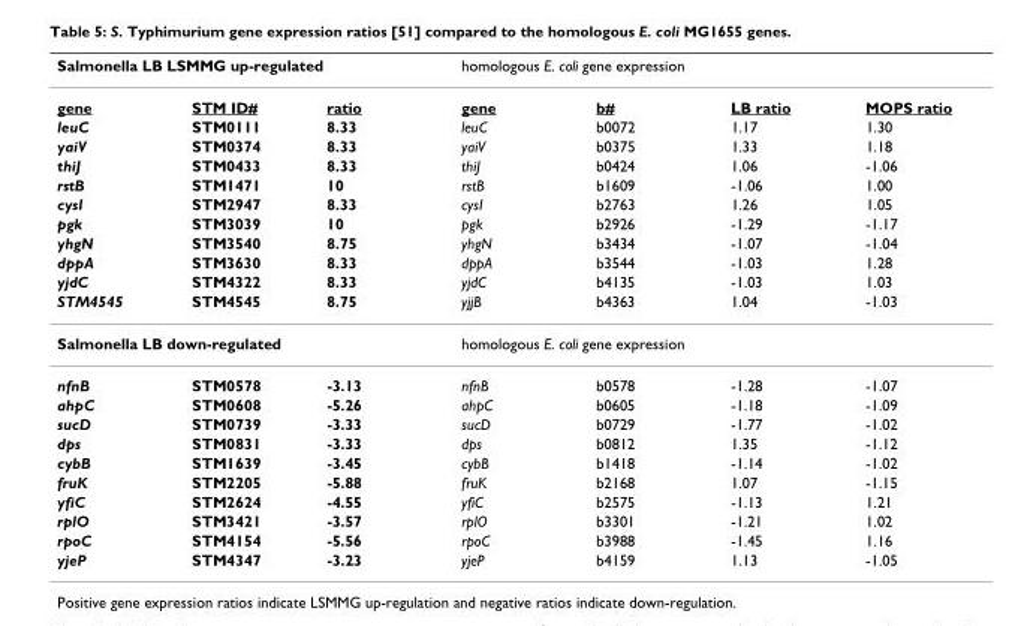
<table><thead><tr><td colspan="3">Salmonella LB LSMMG up-regulated</td><td colspan="4">homologous E. coli gene expression</td></tr><tr><td>gene</td><td>STM ID#</td><td>ratio</td><td>gene</td><td>b#</td><td>LB ratio</td><td>MOPS ratio</td></tr></thead><tbody><tr><td>leuC</td><td>STM0111</td><td>8.33</td><td>leuC</td><td>b0072</td><td>1.17</td><td>1.30</td></tr><tr><td>yaiV</td><td>STM0374</td><td>8.33</td><td>yaiV</td><td>b0375</td><td>1.33</td><td>1.18</td></tr><tr><td>thiJ</td><td>STM0433</td><td>8.33</td><td>thiJ</td><td>b0424</td><td>1.06</td><td>-1.06</td></tr><tr><td>rstB</td><td>STM1471</td><td>10</td><td>rstB</td><td>b1609</td><td>-1.06</td><td>1.00</td></tr><tr><td>cysI</td><td>STM2947</td><td>8.33</td><td>cysI</td><td>b2763</td><td>1.26</td><td>1.05</td></tr><tr><td>pgk</td><td>STM3039</td><td>10</td><td>pgk</td><td>b2926</td><td>-1.29</td><td>-1.17</td></tr><tr><td>yhgN</td><td>STM3540</td><td>8.75</td><td>yhgN</td><td>b3434</td><td>-1.07</td><td>-1.04</td></tr><tr><td>dppA</td><td>STM3630</td><td>8.33</td><td>dppA</td><td>b3544</td><td>-1.03</td><td>1.28</td></tr><tr><td>yjdC</td><td>STM4322</td><td>8.33</td><td>yjdC</td><td>b4135</td><td>-1.03</td><td>1.03</td></tr><tr><td>STM4545</td><td>STM4545</td><td>8.75</td><td>yjjB</td><td>b4363</td><td>1.04</td><td>-1.03</td></tr><tr><td colspan="3">Salmonella LB down-regulated</td><td colspan="4">homologous E. coli gene expression</td></tr><tr><td>nfnB</td><td>STM0578</td><td>-3.13</td><td>nfnB</td><td>b0578</td><td>-1.28</td><td>-1.07</td></tr><tr><td>ahpC</td><td>STM0608</td><td>-5.26</td><td>ahpC</td><td>b0605</td><td>-1.18</td><td>-1.09</td></tr><tr><td>sucD</td><td>STM0739</td><td>-3.33</td><td>sucD</td><td>b0729</td><td>-1.77</td><td>-1.02</td></tr><tr><td>dps</td><td>STM0831</td><td>-3.33</td><td>dps</td><td>b0812</td><td>1.35</td><td>-1.12</td></tr><tr><td>cybB</td><td>STM1639</td><td>-3.45</td><td>cybB</td><td>b1418</td><td>-1.14</td><td>-1.02</td></tr><tr><td>fruK</td><td>STM2205</td><td>-5.88</td><td>fruK</td><td>b2168</td><td>1.07</td><td>-1.15</td></tr><tr><td>yfiC</td><td>STM2624</td><td>-4.55</td><td>yfiC</td><td>b2575</td><td>-1.13</td><td>1.21</td></tr><tr><td>rplO</td><td>STM3421</td><td>-3.57</td><td>rplO</td><td>b3301</td><td>-1.21</td><td>1.02</td></tr><tr><td>rpoC</td><td>STM4154</td><td>-5.56</td><td>rpoC</td><td>b3988</td><td>-1.45</td><td>1.16</td></tr><tr><td>yjeP</td><td>STM4347</td><td>-3.23</td><td>yjeP</td><td>b4159</td><td>1.13</td><td>-1.05</td></tr></tbody></table>